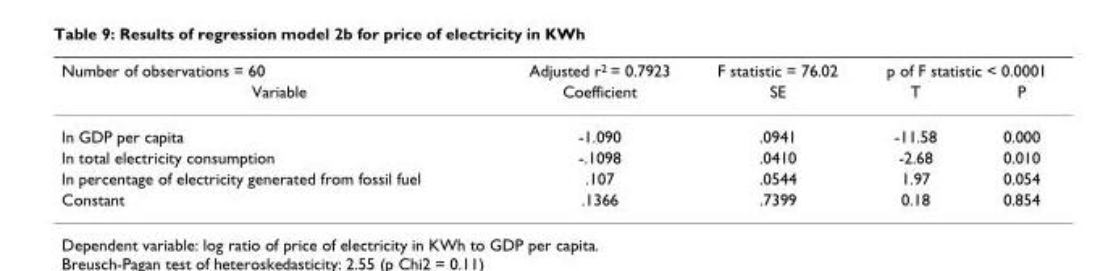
<table><thead><tr><td rowspan="2">Number of observations = 60 Variable</td><td rowspan="2">Adjusted r<sup>2</sup> = 0.7923 Coefficient</td><td rowspan="2">F statistic = 76.02 SE</td><td colspan="2">p of F statistic &lt; 0.0001</td></tr><tr><td>T</td><td>P</td></tr></thead><tbody><tr><td>ln GDP per capita</td><td>-1.090</td><td>.0941</td><td>-11.58</td><td>0.000</td></tr><tr><td>ln total electricity consumption</td><td>-.1098</td><td>.0410</td><td>-2.68</td><td>0.010</td></tr><tr><td>ln percentage of electricity generated from fossil fuel</td><td>.107</td><td>.0544</td><td>1.97</td><td>0.054</td></tr><tr><td>Constant</td><td>.1366</td><td>.7399</td><td>0.18</td><td>0.854</td></tr></tbody></table>